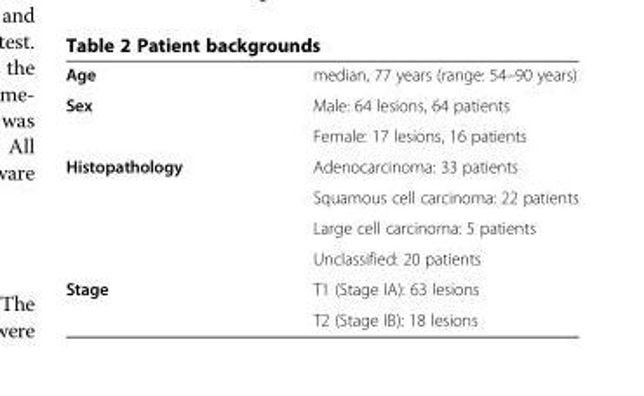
<table><tbody><tr><td>Age</td><td>median, 77 years (range: 54–90 years)</td></tr><tr><td rowspan="2">Sex</td><td>Male: 64 lesions, 64 patients</td></tr><tr><td>Female: 17 lesions, 16 patients</td></tr><tr><td rowspan="4">Histopathology</td><td>Adenocarcinoma: 33 patients</td></tr><tr><td>Squamous cell carcinoma: 22 patients</td></tr><tr><td>Large cell carcinoma: 5 patients</td></tr><tr><td>Unclassified: 20 patients</td></tr><tr><td rowspan="2">Stage</td><td>T1 (Stage IA): 63 lesions</td></tr><tr><td>T2 (Stage IB): 18 lesions</td></tr></tbody></table>